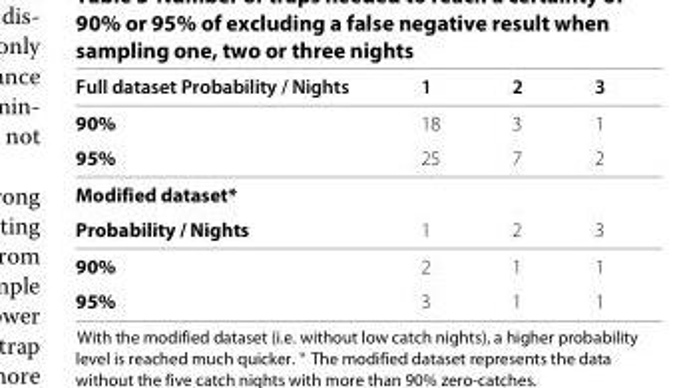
<table><thead><tr><td>Full dataset Probability / Nights</td><td>1</td><td>2</td><td>3</td></tr></thead><tbody><tr><td>90%</td><td>18</td><td>3</td><td>1</td></tr><tr><td>95%</td><td>25</td><td>7</td><td>2</td></tr><tr><td colspan="4">Modified dataset*</td></tr><tr><td>Probability / Nights</td><td>1</td><td>2</td><td>3</td></tr><tr><td>90%</td><td>2</td><td>1</td><td>1</td></tr><tr><td>95%</td><td>3</td><td>1</td><td>1</td></tr></tbody></table>